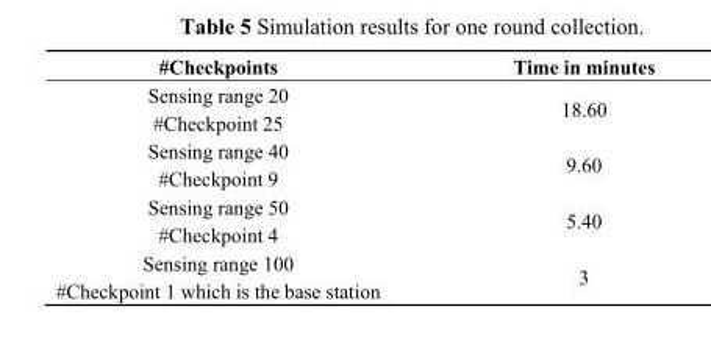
<table><thead><tr><td>#Checkpoints</td><td>Time in minutes</td></tr></thead><tbody><tr><td>Sensing range 20 #Checkpoint 25</td><td>18.60</td></tr><tr><td>Sensing range 40 #Checkpoint 9</td><td>9.60</td></tr><tr><td>Sensing range 50 #Checkpoint 4</td><td>5.40</td></tr><tr><td>Sensing range 100 #Checkpoint 1 which is the base station</td><td>3</td></tr></tbody></table>